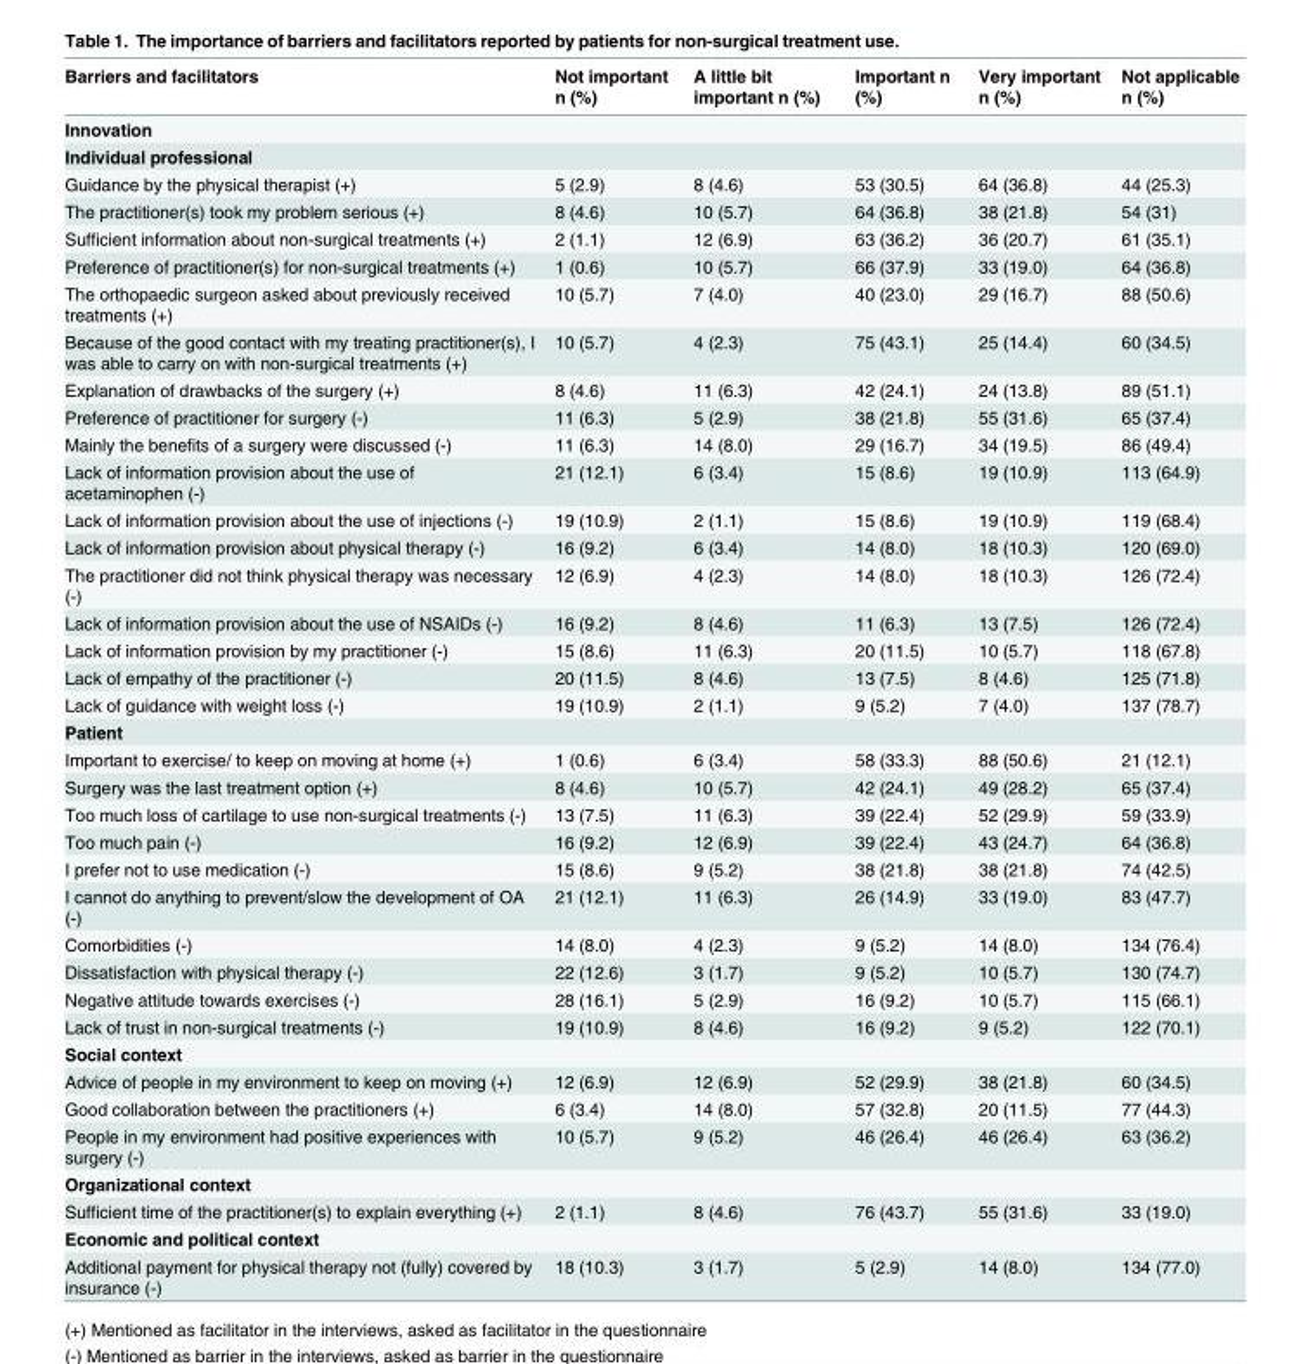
<table><thead><tr><td>Barriers and facilitators</td><td>Not important n (%)</td><td>A little bit important n (%)</td><td>Important n (%)</td><td>Very important n (%)</td><td>Not applicable n (%)</td></tr></thead><tbody><tr><td colspan="6">Innovation</td></tr><tr><td colspan="6">Individual professional</td></tr><tr><td>Guidance by the physical therapist (+)</td><td>5 (2.9)</td><td>8 (4.6)</td><td>53 (30.5)</td><td>64 (36.8)</td><td>44 (25.3)</td></tr><tr><td>The practitioner(s) took my problem serious (+)</td><td>8 (4.6)</td><td>10 (5.7)</td><td>64 (36.8)</td><td>38 (21.8)</td><td>54 (31)</td></tr><tr><td>Sufficient information about non-surgical treatments (+)</td><td>2 (1.1)</td><td>12 (6.9)</td><td>63 (36.2)</td><td>36 (20.7)</td><td>61 (35.1)</td></tr><tr><td>Preference of practitioner(s) for non-surgical treatments (+)</td><td>1 (0.6)</td><td>10 (5.7)</td><td>66 (37.9)</td><td>33 (19.0)</td><td>64 (36.8)</td></tr><tr><td>The orthopaedic surgeon asked about previously received treatments (+)</td><td>10 (5.7)</td><td>7 (4.0)</td><td>40 (23.0)</td><td>29 (16.7)</td><td>88 (50.6)</td></tr><tr><td>Because of the good contact with my treating practitioner(s), I was able to carry on with non-surgical treatments (+)</td><td>10 (5.7)</td><td>4 (2.3)</td><td>75 (43.1)</td><td>25 (14.4)</td><td>60 (34.5)</td></tr><tr><td>Explanation of drawbacks of the surgery (+)</td><td>8 (4.6)</td><td>11 (6.3)</td><td>42 (24.1)</td><td>24 (13.8)</td><td>89 (51.1)</td></tr><tr><td>Preference of practitioner for surgery (-)</td><td>11 (6.3)</td><td>5 (2.9)</td><td>38 (21.8)</td><td>55 (31.6)</td><td>65 (37.4)</td></tr><tr><td>Mainly the benefits of a surgery were discussed (-)</td><td>11 (6.3)</td><td>14 (8.0)</td><td>29 (16.7)</td><td>34 (19.5)</td><td>86 (49.4)</td></tr><tr><td>Lack of information provision about the use of acetaminophen (-)</td><td>21 (12.1)</td><td>6 (3.4)</td><td>15 (8.6)</td><td>19 (10.9)</td><td>113 (64.9)</td></tr><tr><td>Lack of information provision about the use of injections (-)</td><td>19 (10.9)</td><td>2 (1.1)</td><td>15 (8.6)</td><td>19 (10.9)</td><td>119 (68.4)</td></tr><tr><td>Lack of information provision about physical therapy (-)</td><td>16 (9.2)</td><td>6 (3.4)</td><td>14 (8.0)</td><td>18 (10.3)</td><td>120 (69.0)</td></tr><tr><td>The practitioner did not think physical therapy was necessary (-)</td><td>12 (6.9)</td><td>4 (2.3)</td><td>14 (8.0)</td><td>18 (10.3)</td><td>126 (72.4)</td></tr><tr><td>Lack of information provision about the use of NSAIDs (-)</td><td>16 (9.2)</td><td>8 (4.6)</td><td>11 (6.3)</td><td>13 (7.5)</td><td>126 (72.4)</td></tr><tr><td>Lack of information provision by my practitioner (-)</td><td>15 (8.6)</td><td>11 (6.3)</td><td>20 (11.5)</td><td>10 (5.7)</td><td>118 (67.8)</td></tr><tr><td>Lack of empathy of the practitioner (-)</td><td>20 (11.5)</td><td>8 (4.6)</td><td>13 (7.5)</td><td>8 (4.6)</td><td>125 (71.8)</td></tr><tr><td>Lack of guidance with weight loss (-)</td><td>19 (10.9)</td><td>2 (1.1)</td><td>9 (5.2)</td><td>7 (4.0)</td><td>137 (78.7)</td></tr><tr><td colspan="6">Patient</td></tr><tr><td>Important to exercise/ to keep on moving at home (+)</td><td>1 (0.6)</td><td>6 (3.4)</td><td>58 (33.3)</td><td>88 (50.6)</td><td>21 (12.1)</td></tr><tr><td>Surgery was the last treatment option (+)</td><td>8 (4.6)</td><td>10 (5.7)</td><td>42 (24.1)</td><td>49 (28.2)</td><td>65 (37.4)</td></tr><tr><td>Too much loss of cartilage to use non-surgical treatments (-)</td><td>13 (7.5)</td><td>11 (6.3)</td><td>39 (22.4)</td><td>52 (29.9)</td><td>59 (33.9)</td></tr><tr><td>Too much pain (-)</td><td>16 (9.2)</td><td>12 (6.9)</td><td>39 (22.4)</td><td>43 (24.7)</td><td>64 (36.8)</td></tr><tr><td>I prefer not to use medication (-)</td><td>15 (8.6)</td><td>9 (5.2)</td><td>38 (21.8)</td><td>38 (21.8)</td><td>74 (42.5)</td></tr><tr><td>I cannot do anything to prevent/slow the development of OA (-)</td><td>21 (12.1)</td><td>11 (6.3)</td><td>26 (14.9)</td><td>33 (19.0)</td><td>83 (47.7)</td></tr><tr><td>Comorbidities (-)</td><td>14 (8.0)</td><td>4 (2.3)</td><td>9 (5.2)</td><td>14 (8.0)</td><td>134 (76.4)</td></tr><tr><td>Dissatisfaction with physical therapy (-)</td><td>22 (12.6)</td><td>3 (1.7)</td><td>9 (5.2)</td><td>10 (5.7)</td><td>130 (74.7)</td></tr><tr><td>Negative attitude towards exercises (-)</td><td>28 (16.1)</td><td>5 (2.9)</td><td>16 (9.2)</td><td>10 (5.7)</td><td>115 (66.1)</td></tr><tr><td>Lack of trust in non-surgical treatments (-)</td><td>19 (10.9)</td><td>8 (4.6)</td><td>16 (9.2)</td><td>9 (5.2)</td><td>122 (70.1)</td></tr><tr><td colspan="6">Social context</td></tr><tr><td>Advice of people in my environment to keep on moving (+)</td><td>12 (6.9)</td><td>12 (6.9)</td><td>52 (29.9)</td><td>38 (21.8)</td><td>60 (34.5)</td></tr><tr><td>Good collaboration between the practitioners (+)</td><td>6 (3.4)</td><td>14 (8.0)</td><td>57 (32.8)</td><td>20 (11.5)</td><td>77 (44.3)</td></tr><tr><td>People in my environment had positive experiences with surgery (-)</td><td>10 (5.7)</td><td>9 (5.2)</td><td>46 (26.4)</td><td>46 (26.4)</td><td>63 (36.2)</td></tr><tr><td colspan="6">Organizational context</td></tr><tr><td>Sufficient time of the practitioner(s) to explain everything (+)</td><td>2 (1.1)</td><td>8 (4.6)</td><td>76 (43.7)</td><td>55 (31.6)</td><td>33 (19.0)</td></tr><tr><td colspan="6">Economic and political context</td></tr><tr><td>Additional payment for physical therapy not (fully) covered by insurance (-)</td><td>18 (10.3)</td><td>3 (1.7)</td><td>5 (2.9)</td><td>14 (8.0)</td><td>134 (77.0)</td></tr></tbody></table>